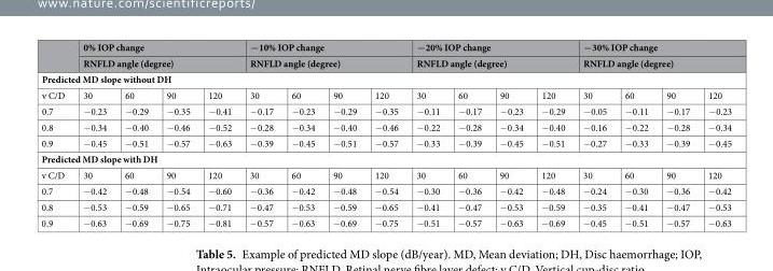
<table><thead><tr><td rowspan="2"></td><td rowspan="2" colspan="4">0% IOP change RNFLD angle (degree)</td><td rowspan="2" colspan="4">−10% IOP change RNFLD angle (degree)</td><td rowspan="2" colspan="4">−20% IOP change RNFLD angle (degree)</td><td rowspan="2" colspan="4">−30% IOP change RNFLD angle (degree)</td></tr><tr></tr><tr><td colspan="17">Predicted MD slope without DH</td></tr><tr><td>v C/D</td><td>30</td><td>60</td><td>90</td><td>120</td><td>30</td><td>60</td><td>90</td><td>120</td><td>30</td><td>60</td><td>90</td><td>120</td><td>30</td><td>60</td><td>90</td><td>120</td></tr></thead><tbody><tr><td>0.7</td><td>−0.23</td><td>−0.29</td><td>−0.35</td><td>−0.41</td><td>−0.17</td><td>−0.23</td><td>−0.29</td><td>−0.35</td><td>−0.11</td><td>−0.17</td><td>−0.23</td><td>−0.29</td><td>−0.05</td><td>−0.11</td><td>−0.17</td><td>−0.23</td></tr><tr><td>0.8</td><td>−0.34</td><td>−0.40</td><td>−0.46</td><td>−0.52</td><td>−0.28</td><td>−0.34</td><td>−0.40</td><td>−0.46</td><td>−0.22</td><td>−0.28</td><td>−0.34</td><td>−0.40</td><td>−0.16</td><td>−0.22</td><td>−0.28</td><td>−0.34</td></tr><tr><td>0.9</td><td>−0.45</td><td>−0.51</td><td>−0.57</td><td>−0.63</td><td>−0.39</td><td>−0.45</td><td>−0.51</td><td>−0.57</td><td>−0.33</td><td>−0.39</td><td>−0.45</td><td>−0.51</td><td>−0.27</td><td>−0.33</td><td>−0.39</td><td>−0.45</td></tr><tr><td colspan="17">Predicted MD slope with DH</td></tr><tr><td>v C/D</td><td>30</td><td>60</td><td>90</td><td>120</td><td>30</td><td>60</td><td>90</td><td>120</td><td>30</td><td>60</td><td>90</td><td>120</td><td>30</td><td>60</td><td>90</td><td>120</td></tr><tr><td>0.7</td><td>−0.42</td><td>−0.48</td><td>−0.54</td><td>−0.60</td><td>−0.36</td><td>−0.42</td><td>−0.48</td><td>−0.54</td><td>−0.30</td><td>−0.36</td><td>−0.42</td><td>−0.48</td><td>−0.24</td><td>−0.30</td><td>−0.36</td><td>−0.42</td></tr><tr><td>0.8</td><td>−0.53</td><td>−0.59</td><td>−0.65</td><td>−0.71</td><td>−0.47</td><td>−0.53</td><td>−0.59</td><td>−0.65</td><td>−0.41</td><td>−0.47</td><td>−0.53</td><td>−0.59</td><td>−0.35</td><td>−0.41</td><td>−0.47</td><td>−0.53</td></tr><tr><td>0.9</td><td>−0.63</td><td>−0.69</td><td>−0.75</td><td>−0.81</td><td>−0.57</td><td>−0.63</td><td>−0.69</td><td>−0.75</td><td>−0.51</td><td>−0.57</td><td>−0.63</td><td>−0.69</td><td>−0.45</td><td>−0.51</td><td>−0.57</td><td>−0.63</td></tr></tbody></table>